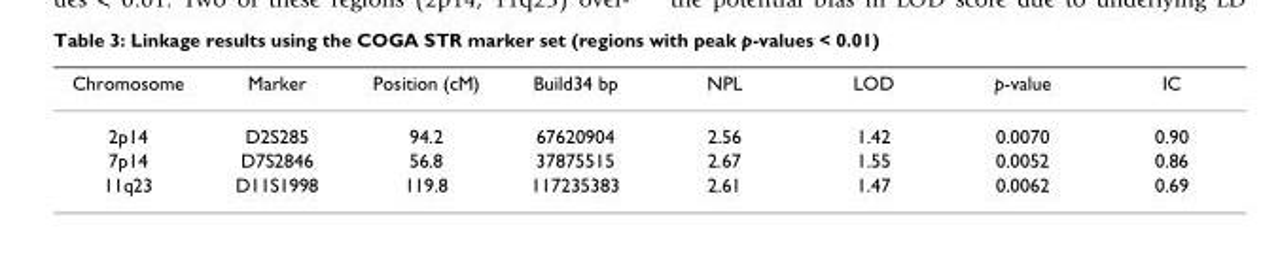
<table><thead><tr><td>Chromosome</td><td>Marker</td><td>Position (cM)</td><td>Build34 bp</td><td>NPL</td><td>LOD</td><td>p-value</td><td>IC</td></tr></thead><tbody><tr><td>2p14</td><td>D2S285</td><td>94.2</td><td>67620904</td><td>2.56</td><td>1.42</td><td>0.0070</td><td>0.90</td></tr><tr><td>7p14</td><td>D7S2846</td><td>56.8</td><td>37875515</td><td>2.67</td><td>1.55</td><td>0.0052</td><td>0.86</td></tr><tr><td>11q23</td><td>D11S1998</td><td>119.8</td><td>117235383</td><td>2.61</td><td>1.47</td><td>0.0062</td><td>0.69</td></tr></tbody></table>